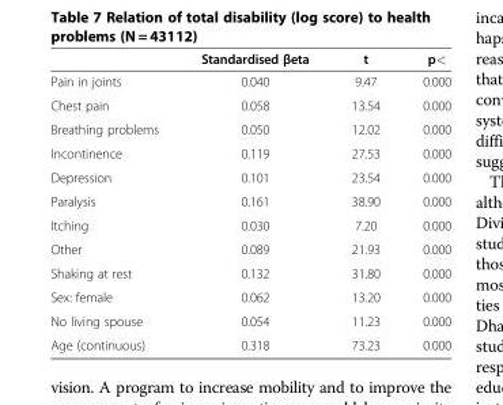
<table><thead><tr><td></td><td>Standardised βeta</td><td>t</td><td>p&lt;</td></tr></thead><tbody><tr><td>Pain in joints</td><td>0.040</td><td>9.47</td><td>0.000</td></tr><tr><td>Chest pain</td><td>0.058</td><td>13.54</td><td>0.000</td></tr><tr><td>Breathing problems</td><td>0.050</td><td>12.02</td><td>0.000</td></tr><tr><td>Incontinence</td><td>0.119</td><td>27.53</td><td>0.000</td></tr><tr><td>Depression</td><td>0.101</td><td>23.54</td><td>0.000</td></tr><tr><td>Paralysis</td><td>0.161</td><td>38.90</td><td>0.000</td></tr><tr><td>Itching</td><td>0.030</td><td>7.20</td><td>0.000</td></tr><tr><td>Other</td><td>0.089</td><td>21.93</td><td>0.000</td></tr><tr><td>Shaking at rest</td><td>0.132</td><td>31.80</td><td>0.000</td></tr><tr><td>Sex: female</td><td>0.062</td><td>13.20</td><td>0.000</td></tr><tr><td>No living spouse</td><td>0.054</td><td>11.23</td><td>0.000</td></tr><tr><td>Age (continuous)</td><td>0.318</td><td>73.23</td><td>0.000</td></tr></tbody></table>